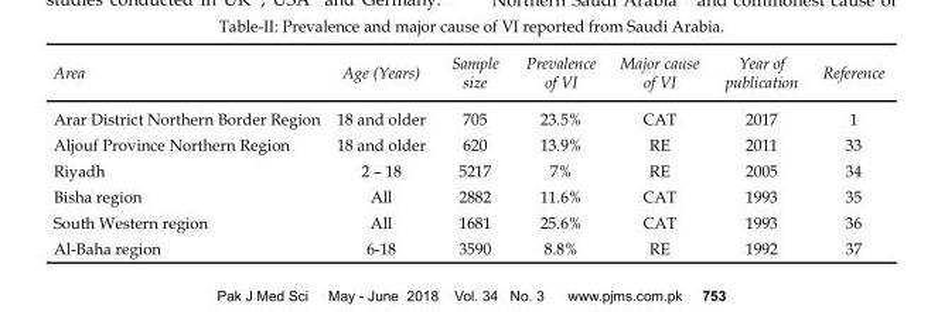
<table><thead><tr><td>Area</td><td>Age (Years)</td><td>Sample size</td><td>Prevalence of VI</td><td>Major cause of VI</td><td>Year of publication</td><td>Reference</td></tr></thead><tbody><tr><td>Arar District Northern Border Region</td><td>18 and older</td><td>705</td><td>23.5%</td><td>CAT</td><td>2017</td><td>1</td></tr><tr><td>Aljouf Province Northern Region</td><td>18 and older</td><td>620</td><td>13.9%</td><td>RE</td><td>2011</td><td>33</td></tr><tr><td>Riyadh</td><td>2 – 18</td><td>5217</td><td>7%</td><td>RE</td><td>2005</td><td>34</td></tr><tr><td>Bisha region</td><td>All</td><td>2882</td><td>11.6%</td><td>CAT</td><td>1993</td><td>35</td></tr><tr><td>South Western region</td><td>All</td><td>1681</td><td>25.6%</td><td>CAT</td><td>1993</td><td>36</td></tr><tr><td>Al-Baha region</td><td>6-18</td><td>3590</td><td>8.8%</td><td>RE</td><td>1992</td><td>37</td></tr></tbody></table>